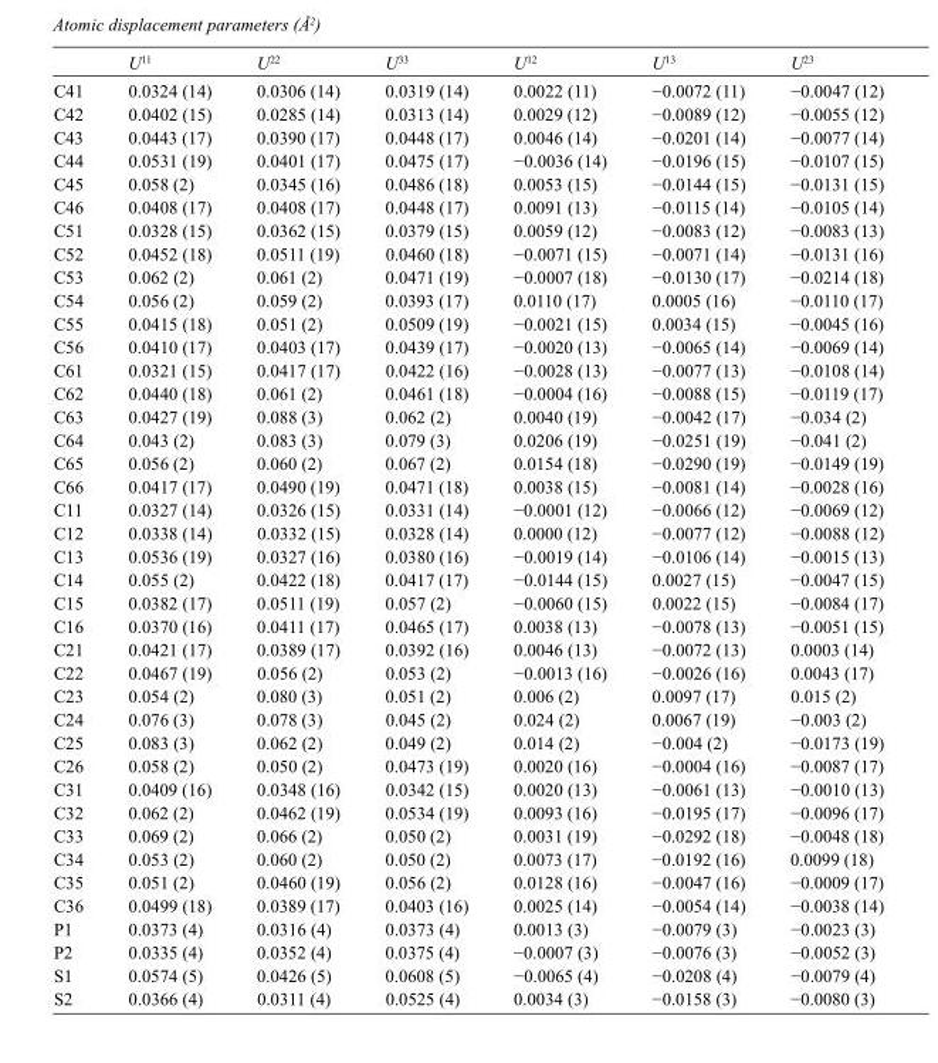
<table><thead><tr><td></td><td>U<sup>11</sup></td><td>U<sup>22</sup></td><td>U<sup>33</sup></td><td>U<sup>12</sup></td><td>U<sup>13</sup></td><td>U<sup>23</sup></td></tr></thead><tbody><tr><td>C41</td><td>0.0324 (14)</td><td>0.0306 (14)</td><td>0.0319 (14)</td><td>0.0022 (11)</td><td>−0.0072 (11)</td><td>−0.0047 (12)</td></tr><tr><td>C42</td><td>0.0402 (15)</td><td>0.0285 (14)</td><td>0.0313 (14)</td><td>0.0029 (12)</td><td>−0.0089 (12)</td><td>−0.0055 (12)</td></tr><tr><td>C43</td><td>0.0443 (17)</td><td>0.0390 (17)</td><td>0.0448 (17)</td><td>0.0046 (14)</td><td>−0.0201 (14)</td><td>−0.0077 (14)</td></tr><tr><td>C44</td><td>0.0531 (19)</td><td>0.0401 (17)</td><td>0.0475 (17)</td><td>−0.0036 (14)</td><td>−0.0196 (15)</td><td>−0.0107 (15)</td></tr><tr><td>C45</td><td>0.058 (2)</td><td>0.0345 (16)</td><td>0.0486 (18)</td><td>0.0053 (15)</td><td>−0.0144 (15)</td><td>−0.0131 (15)</td></tr><tr><td>C46</td><td>0.0408 (17)</td><td>0.0408 (17)</td><td>0.0448 (17)</td><td>0.0091 (13)</td><td>−0.0115 (14)</td><td>−0.0105 (14)</td></tr><tr><td>C51</td><td>0.0328 (15)</td><td>0.0362 (15)</td><td>0.0379 (15)</td><td>0.0059 (12)</td><td>−0.0083 (12)</td><td>−0.0083 (13)</td></tr><tr><td>C52</td><td>0.0452 (18)</td><td>0.0511 (19)</td><td>0.0460 (18)</td><td>−0.0071 (15)</td><td>−0.0071 (14)</td><td>−0.0131 (16)</td></tr><tr><td>C53</td><td>0.062 (2)</td><td>0.061 (2)</td><td>0.0471 (19)</td><td>−0.0007 (18)</td><td>−0.0130 (17)</td><td>−0.0214 (18)</td></tr><tr><td>C54</td><td>0.056 (2)</td><td>0.059 (2)</td><td>0.0393 (17)</td><td>0.0110 (17)</td><td>0.0005 (16)</td><td>−0.0110 (17)</td></tr><tr><td>C55</td><td>0.0415 (18)</td><td>0.051 (2)</td><td>0.0509 (19)</td><td>−0.0021 (15)</td><td>0.0034 (15)</td><td>−0.0045 (16)</td></tr><tr><td>C56</td><td>0.0410 (17)</td><td>0.0403 (17)</td><td>0.0439 (17)</td><td>−0.0020 (13)</td><td>−0.0065 (14)</td><td>−0.0069 (14)</td></tr><tr><td>C61</td><td>0.0321 (15)</td><td>0.0417 (17)</td><td>0.0422 (16)</td><td>−0.0028 (13)</td><td>−0.0077 (13)</td><td>−0.0108 (14)</td></tr><tr><td>C62</td><td>0.0440 (18)</td><td>0.061 (2)</td><td>0.0461 (18)</td><td>−0.0004 (16)</td><td>−0.0088 (15)</td><td>−0.0119 (17)</td></tr><tr><td>C63</td><td>0.0427 (19)</td><td>0.088 (3)</td><td>0.062 (2)</td><td>0.0040 (19)</td><td>−0.0042 (17)</td><td>−0.034 (2)</td></tr><tr><td>C64</td><td>0.043 (2)</td><td>0.083 (3)</td><td>0.079 (3)</td><td>0.0206 (19)</td><td>−0.0251 (19)</td><td>−0.041 (2)</td></tr><tr><td>C65</td><td>0.056 (2)</td><td>0.060 (2)</td><td>0.067 (2)</td><td>0.0154 (18)</td><td>−0.0290 (19)</td><td>−0.0149 (19)</td></tr><tr><td>C66</td><td>0.0417 (17)</td><td>0.0490 (19)</td><td>0.0471 (18)</td><td>0.0038 (15)</td><td>−0.0081 (14)</td><td>−0.0028 (16)</td></tr><tr><td>C11</td><td>0.0327 (14)</td><td>0.0326 (15)</td><td>0.0331 (14)</td><td>−0.0001 (12)</td><td>−0.0066 (12)</td><td>−0.0069 (12)</td></tr><tr><td>C12</td><td>0.0338 (14)</td><td>0.0332 (15)</td><td>0.0328 (14)</td><td>0.0000 (12)</td><td>−0.0077 (12)</td><td>−0.0088 (12)</td></tr><tr><td>C13</td><td>0.0536 (19)</td><td>0.0327 (16)</td><td>0.0380 (16)</td><td>−0.0019 (14)</td><td>−0.0106 (14)</td><td>−0.0015 (13)</td></tr><tr><td>C14</td><td>0.055 (2)</td><td>0.0422 (18)</td><td>0.0417 (17)</td><td>−0.0144 (15)</td><td>0.0027 (15)</td><td>−0.0047 (15)</td></tr><tr><td>C15</td><td>0.0382 (17)</td><td>0.0511 (19)</td><td>0.057 (2)</td><td>−0.0060 (15)</td><td>0.0022 (15)</td><td>−0.0084 (17)</td></tr><tr><td>C16</td><td>0.0370 (16)</td><td>0.0411 (17)</td><td>0.0465 (17)</td><td>0.0038 (13)</td><td>−0.0078 (13)</td><td>−0.0051 (15)</td></tr><tr><td>C21</td><td>0.0421 (17)</td><td>0.0389 (17)</td><td>0.0392 (16)</td><td>0.0046 (13)</td><td>−0.0072 (13)</td><td>0.0003 (14)</td></tr><tr><td>C22</td><td>0.0467 (19)</td><td>0.056 (2)</td><td>0.053 (2)</td><td>−0.0013 (16)</td><td>−0.0026 (16)</td><td>0.0043 (17)</td></tr><tr><td>C23</td><td>0.054 (2)</td><td>0.080 (3)</td><td>0.051 (2)</td><td>0.006 (2)</td><td>0.0097 (17)</td><td>0.015 (2)</td></tr><tr><td>C24</td><td>0.076 (3)</td><td>0.078 (3)</td><td>0.045 (2)</td><td>0.024 (2)</td><td>0.0067 (19)</td><td>−0.003 (2)</td></tr><tr><td>C25</td><td>0.083 (3)</td><td>0.062 (2)</td><td>0.049 (2)</td><td>0.014 (2)</td><td>−0.004 (2)</td><td>−0.0173 (19)</td></tr><tr><td>C26</td><td>0.058 (2)</td><td>0.050 (2)</td><td>0.0473 (19)</td><td>0.0020 (16)</td><td>−0.0004 (16)</td><td>−0.0087 (17)</td></tr><tr><td>C31</td><td>0.0409 (16)</td><td>0.0348 (16)</td><td>0.0342 (15)</td><td>0.0020 (13)</td><td>−0.0061 (13)</td><td>−0.0010 (13)</td></tr><tr><td>C32</td><td>0.062 (2)</td><td>0.0462 (19)</td><td>0.0534 (19)</td><td>0.0093 (16)</td><td>−0.0195 (17)</td><td>−0.0096 (17)</td></tr><tr><td>C33</td><td>0.069 (2)</td><td>0.066 (2)</td><td>0.050 (2)</td><td>0.0031 (19)</td><td>−0.0292 (18)</td><td>−0.0048 (18)</td></tr><tr><td>C34</td><td>0.053 (2)</td><td>0.060 (2)</td><td>0.050 (2)</td><td>0.0073 (17)</td><td>−0.0192 (16)</td><td>0.0099 (18)</td></tr><tr><td>C35</td><td>0.051 (2)</td><td>0.0460 (19)</td><td>0.056 (2)</td><td>0.0128 (16)</td><td>−0.0047 (16)</td><td>−0.0009 (17)</td></tr><tr><td>C36</td><td>0.0499 (18)</td><td>0.0389 (17)</td><td>0.0403 (16)</td><td>0.0025 (14)</td><td>−0.0054 (14)</td><td>−0.0038 (14)</td></tr><tr><td>P1</td><td>0.0373 (4)</td><td>0.0316 (4)</td><td>0.0373 (4)</td><td>0.0013 (3)</td><td>−0.0079 (3)</td><td>−0.0023 (3)</td></tr><tr><td>P2</td><td>0.0335 (4)</td><td>0.0352 (4)</td><td>0.0375 (4)</td><td>−0.0007 (3)</td><td>−0.0076 (3)</td><td>−0.0052 (3)</td></tr><tr><td>S1</td><td>0.0574 (5)</td><td>0.0426 (5)</td><td>0.0608 (5)</td><td>−0.0065 (4)</td><td>−0.0208 (4)</td><td>−0.0079 (4)</td></tr><tr><td>S2</td><td>0.0366 (4)</td><td>0.0311 (4)</td><td>0.0525 (4)</td><td>0.0034 (3)</td><td>−0.0158 (3)</td><td>−0.0080 (3)</td></tr></tbody></table>